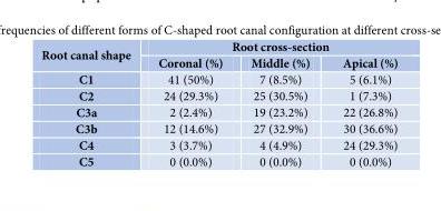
<table><thead><tr><td rowspan="2">Root canal shape</td><td colspan="3">Root cross-section</td></tr><tr><td>Coronal (%)</td><td>Middle (%)</td><td>Apical (%)</td></tr></thead><tbody><tr><td>C1</td><td>41 (50%)</td><td>7 (8.5%)</td><td>5 (6.1%)</td></tr><tr><td>C2</td><td>24 (29.3%)</td><td>25 (30.5%)</td><td>1 (7.3%)</td></tr><tr><td>C3a</td><td>2 (2.4%)</td><td>19 (23.2%)</td><td>22 (26.8%)</td></tr><tr><td>C3b</td><td>12 (14.6%)</td><td>27 (32.9%)</td><td>30 (36.6%)</td></tr><tr><td>C4</td><td>3 (3.7%)</td><td>4 (4.9%)</td><td>24 (29.3%)</td></tr><tr><td>C5</td><td>0 (0.0%)</td><td>0 (0.0%)</td><td>0 (0.0%)</td></tr></tbody></table>